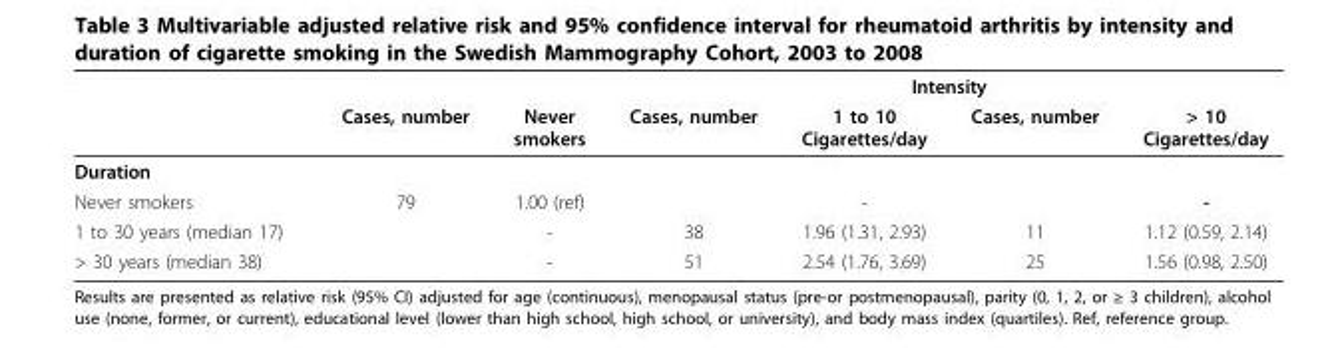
<table><thead><tr><td rowspan="2"></td><td rowspan="2">Cases, number</td><td rowspan="2">Never smokers</td><td colspan="4">Intensity</td></tr><tr><td>Cases, number</td><td>1 to 10 Cigarettes/day</td><td>Cases, number</td><td>&gt; 10 Cigarettes/day</td></tr></thead><tbody><tr><td colspan="7">Duration</td></tr><tr><td>Never smokers</td><td>79</td><td>1.00 (ref)</td><td></td><td>-</td><td></td><td>-</td></tr><tr><td>1 to 30 years (median 17)</td><td></td><td>-</td><td>38</td><td>1.96 (1.31, 2.93)</td><td>11</td><td>1.12 (0.59, 2.14)</td></tr><tr><td>&gt; 30 years (median 38)</td><td></td><td>-</td><td>51</td><td>2.54 (1.76, 3.69)</td><td>25</td><td>1.56 (0.98, 2.50)</td></tr></tbody></table>